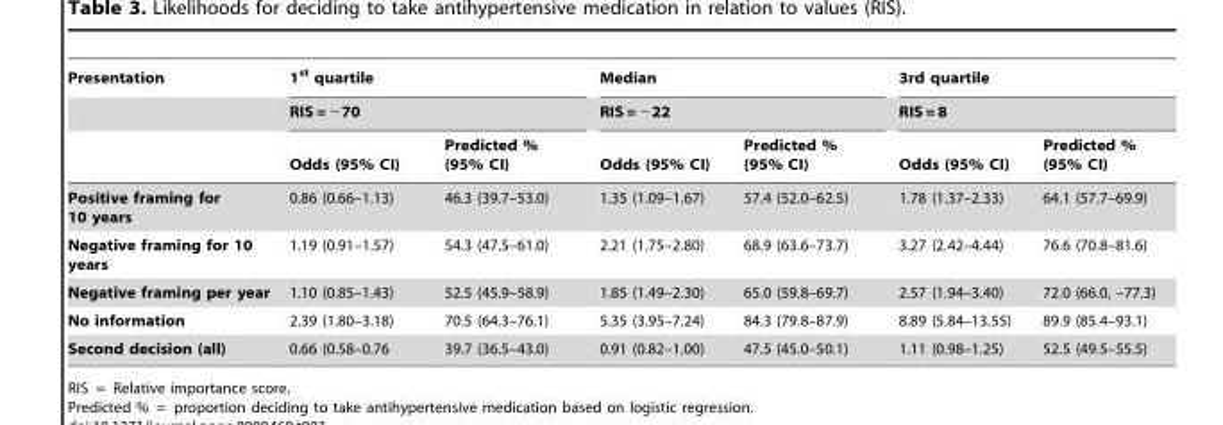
<table><thead><tr><td rowspan="3">Presentation</td><td rowspan="2" colspan="2">1<sup>st</sup> quartile RIS = −70</td><td rowspan="2" colspan="2">Median RIS = −22</td><td rowspan="2" colspan="2">3rd quartile RIS = 8</td></tr><tr></tr><tr><td>Odds (95% CI)</td><td>Predicted % (95% CI)</td><td>Odds (95% CI)</td><td>Predicted % (95% CI)</td><td>Odds (95% CI)</td><td>Predicted % (95% CI)</td></tr></thead><tbody><tr><td>Positive framing for 10 years</td><td>0.86 (0.66–1.13)</td><td>46.3 (39.7–53.0)</td><td>1.35 (1.09–1.67)</td><td>57.4 (52.0–62.5)</td><td>1.78 (1.37–2.33)</td><td>64.1 (57.7–69.9)</td></tr><tr><td>Negative framing for 10 years</td><td>1.19 (0.91–1.57)</td><td>54.3 (47.5–61.0)</td><td>2.21 (1.75–2.80)</td><td>68.9 (63.6–73.7)</td><td>3.27 (2.42–4.44)</td><td>76.6 (70.8–81.6)</td></tr><tr><td>Negative framing per year</td><td>1.10 (0.85–1.43)</td><td>52.5 (45.9–58.9)</td><td>1.85 (1.49–2.30)</td><td>65.0 (59.8–69.7)</td><td>2.57 (1.94–3.40)</td><td>72.0 (66.0, –77.3)</td></tr><tr><td>No information</td><td>2.39 (1.80–3.18)</td><td>70.5 (64.3–76.1)</td><td>5.35 (3.95–7.24)</td><td>84.3 (79.8–87.9)</td><td>8.89 (5.84–13.55)</td><td>89.9 (85.4–93.1)</td></tr><tr><td>Second decision (all)</td><td>0.66 (0.58–0.76</td><td>39.7 (36.5–43.0)</td><td>0.91 (0.82–1.00)</td><td>47.5 (45.0–50.1)</td><td>1.11 (0.98–1.25)</td><td>52.5 (49.5–55.5)</td></tr></tbody></table>